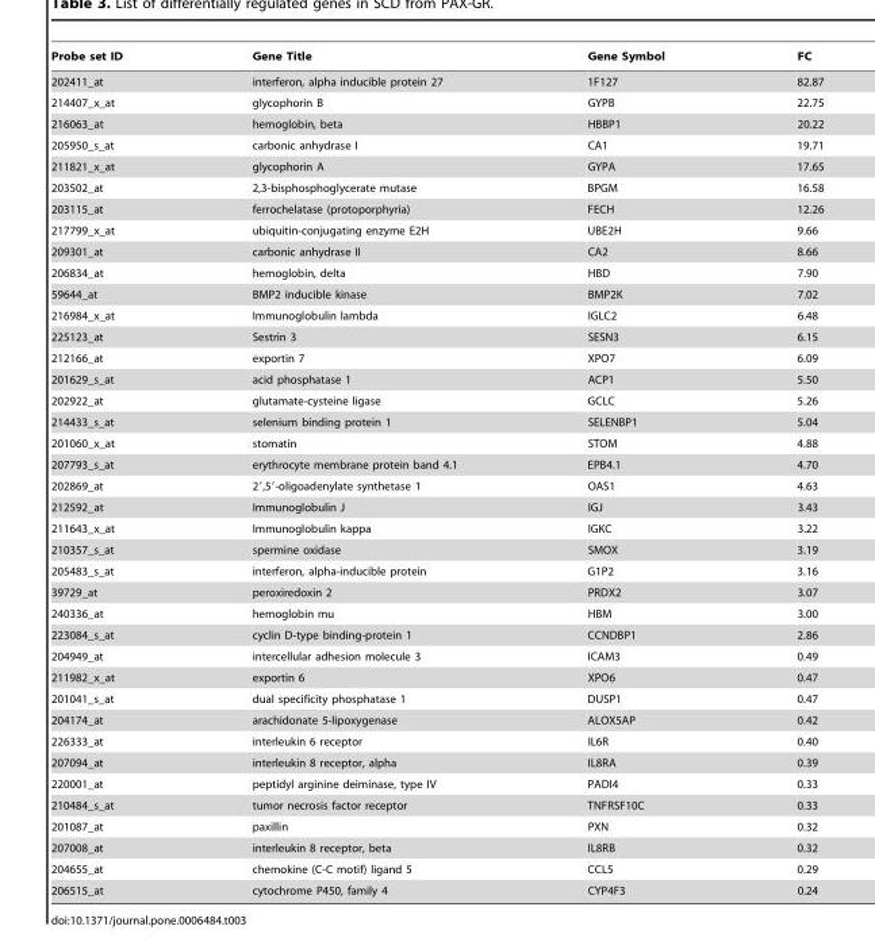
<table><thead><tr><td>Probe set ID</td><td>Gene Title</td><td>Gene Symbol</td><td>FC</td></tr></thead><tbody><tr><td>202411_at</td><td>interferon, alpha inducible protein 27</td><td>1F127</td><td>82.87</td></tr><tr><td>214407_x_at</td><td>glycophorin B</td><td>GYPB</td><td>22.75</td></tr><tr><td>216063_at</td><td>hemoglobin, beta</td><td>HBBP1</td><td>20.22</td></tr><tr><td>205950_s_at</td><td>carbonic anhydrase I</td><td>CA1</td><td>19.71</td></tr><tr><td>211821_x_at</td><td>glycophorin A</td><td>GYPA</td><td>17.65</td></tr><tr><td>203502_at</td><td>2,3-bisphosphoglycerate mutase</td><td>BPGM</td><td>16.58</td></tr><tr><td>203115_at</td><td>ferrochelatase (protoporphyria)</td><td>FECH</td><td>12.26</td></tr><tr><td>217799_x_at</td><td>ubiquitin-conjugating enzyme E2H</td><td>UBE2H</td><td>9.66</td></tr><tr><td>209301_at</td><td>carbonic anhydrase II</td><td>CA2</td><td>8.66</td></tr><tr><td>206834_at</td><td>hemoglobin, delta</td><td>HBD</td><td>7.90</td></tr><tr><td>59644_at</td><td>BMP2 inducible kinase</td><td>BMP2K</td><td>7.02</td></tr><tr><td>216984_x_at</td><td>Immunoglobulin lambda</td><td>IGLC2</td><td>6.48</td></tr><tr><td>225123_at</td><td>Sestrin 3</td><td>SESN3</td><td>6.15</td></tr><tr><td>212166_at</td><td>exportin 7</td><td>XPO7</td><td>6.09</td></tr><tr><td>201629_s_at</td><td>acid phosphatase 1</td><td>ACP1</td><td>5.50</td></tr><tr><td>202922_at</td><td>glutamate-cysteine ligase</td><td>GCLC</td><td>5.26</td></tr><tr><td>214433_s_at</td><td>selenium binding protein 1</td><td>SELENBP1</td><td>5.04</td></tr><tr><td>201060_x_at</td><td>stomatin</td><td>STOM</td><td>4.88</td></tr><tr><td>207793_s_at</td><td>erythrocyte membrane protein band 4.1</td><td>EPB4.1</td><td>4.70</td></tr><tr><td>202869_at</td><td>2′,5′-oligoadenylate synthetase 1</td><td>OAS1</td><td>4.63</td></tr><tr><td>212592_at</td><td>Immunoglobulin J</td><td>IGJ</td><td>3.43</td></tr><tr><td>211643_x_at</td><td>Immunoglobulin kappa</td><td>IGKC</td><td>3.22</td></tr><tr><td>210357_s_at</td><td>spermine oxidase</td><td>SMOX</td><td>3.19</td></tr><tr><td>205483_s_at</td><td>interferon, alpha-inducible protein</td><td>G1P2</td><td>3.16</td></tr><tr><td>39729_at</td><td>peroxiredoxin 2</td><td>PRDX2</td><td>3.07</td></tr><tr><td>240336_at</td><td>hemoglobin mu</td><td>HBM</td><td>3.00</td></tr><tr><td>223084_s_at</td><td>cyclin D-type binding-protein 1</td><td>CCNDBP1</td><td>2.86</td></tr><tr><td>204949_at</td><td>intercellular adhesion molecule 3</td><td>ICAM3</td><td>0.49</td></tr><tr><td>211982_x_at</td><td>exportin 6</td><td>XPO6</td><td>0.47</td></tr><tr><td>201041_s_at</td><td>dual specificity phosphatase 1</td><td>DUSP1</td><td>0.47</td></tr><tr><td>204174_at</td><td>arachidonate 5-lipoxygenase</td><td>ALOX5AP</td><td>0.42</td></tr><tr><td>226333_at</td><td>interleukin 6 receptor</td><td>IL6R</td><td>0.40</td></tr><tr><td>207094_at</td><td>interleukin 8 receptor, alpha</td><td>IL8RA</td><td>0.39</td></tr><tr><td>220001_at</td><td>peptidyl arginine deiminase, type IV</td><td>PADI4</td><td>0.33</td></tr><tr><td>210484_s_at</td><td>tumor necrosis factor receptor</td><td>TNFRSF10C</td><td>0.33</td></tr><tr><td>201087_at</td><td>paxillin</td><td>PXN</td><td>0.32</td></tr><tr><td>207008_at</td><td>interleukin 8 receptor, beta</td><td>IL8RB</td><td>0.32</td></tr><tr><td>204655_at</td><td>chemokine (C-C motif) ligand 5</td><td>CCL5</td><td>0.29</td></tr><tr><td>206515_at</td><td>cytochrome P450, family 4</td><td>CYP4F3</td><td>0.24</td></tr></tbody></table>